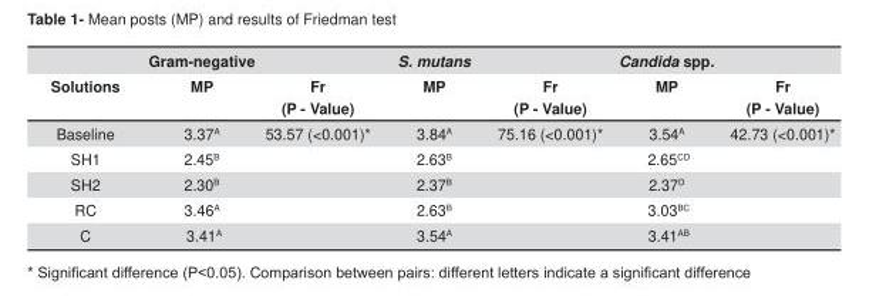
<table><thead><tr><td rowspan="2">Solutions</td><td rowspan="2">Gram-negative MP</td><td rowspan="2">Fr (P - Value)</td><td rowspan="2">S. mutans MP</td><td rowspan="2">Fr (P - Value)</td><td rowspan="2">Candida spp. MP</td><td rowspan="2">Fr (P - Value)</td></tr><tr></tr></thead><tbody><tr><td>Baseline</td><td>3.37<sup>A</sup></td><td>53.57 (&lt;0.001)*</td><td>3.84<sup>A</sup></td><td>75.16 (&lt;0.001)*</td><td>3.54<sup>A</sup></td><td>42.73 (&lt;0.001)*</td></tr><tr><td>SH1</td><td>2.45<sup>B</sup></td><td></td><td>2.63<sup>B</sup></td><td></td><td>2.65<sup>CD</sup></td><td></td></tr><tr><td>SH2</td><td>2.30<sup>B</sup></td><td></td><td>2.37<sup>B</sup></td><td></td><td>2.37<sup>D</sup></td><td></td></tr><tr><td>RC</td><td>3.46<sup>A</sup></td><td></td><td>2.63<sup>B</sup></td><td></td><td>3.03<sup>BC</sup></td><td></td></tr><tr><td>C</td><td>3.41<sup>A</sup></td><td></td><td>3.54<sup>A</sup></td><td></td><td>3.41<sup>AB</sup></td><td></td></tr></tbody></table>